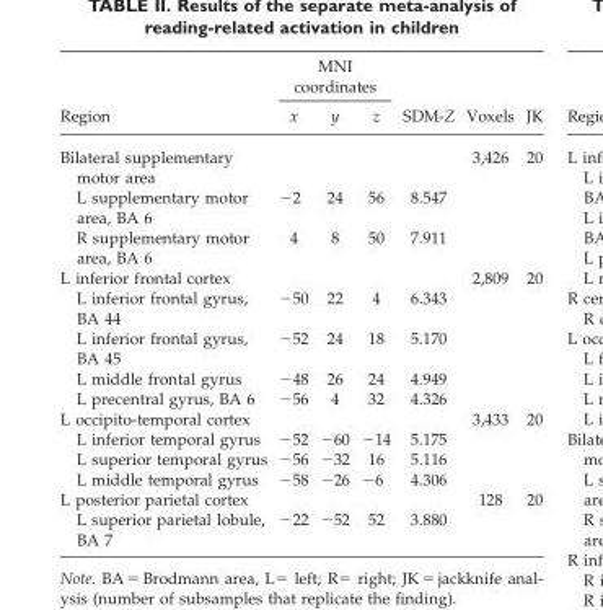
<table><thead><tr><td rowspan="2">Region</td><td colspan="3">MNI coordinates</td><td rowspan="2">SDM-Z</td><td rowspan="2">Voxels</td><td rowspan="2">JK</td></tr><tr><td>x</td><td>y</td><td>z</td></tr></thead><tbody><tr><td>Bilateral supplementary motor area</td><td></td><td></td><td></td><td></td><td>3,426</td><td>20</td></tr><tr><td>L supplementary motor area, BA 6</td><td>−2</td><td>24</td><td>56</td><td>8.547</td><td></td><td></td></tr><tr><td>R supplementary motor area, BA 6</td><td>4</td><td>8</td><td>50</td><td>7.911</td><td></td><td></td></tr><tr><td>L inferior frontal cortex</td><td></td><td></td><td></td><td></td><td>2,809</td><td>20</td></tr><tr><td>L inferior frontal gyrus, BA 44</td><td>−50</td><td>22</td><td>4</td><td>6.343</td><td></td><td></td></tr><tr><td>L inferior frontal gyrus, BA 45</td><td>−52</td><td>24</td><td>18</td><td>5.170</td><td></td><td></td></tr><tr><td>L middle frontal gyrus</td><td>−48</td><td>26</td><td>24</td><td>4.949</td><td></td><td></td></tr><tr><td>L precentral gyrus, BA 6</td><td>−56</td><td>4</td><td>32</td><td>4.326</td><td></td><td></td></tr><tr><td>L occipito-temporal cortex</td><td></td><td></td><td></td><td></td><td>3,433</td><td>20</td></tr><tr><td>L inferior temporal gyrus</td><td>−52</td><td>−60</td><td>−14</td><td>5.175</td><td></td><td></td></tr><tr><td>L superior temporal gyrus</td><td>−56</td><td>−32</td><td>16</td><td>5.116</td><td></td><td></td></tr><tr><td>L middle temporal gyrus</td><td>−58</td><td>−26</td><td>−6</td><td>4.306</td><td></td><td></td></tr><tr><td>L posterior parietal cortex</td><td></td><td></td><td></td><td></td><td>128</td><td>20</td></tr><tr><td>L superior parietal lobule, BA 7</td><td>−22</td><td>−52</td><td>52</td><td>3.880</td><td></td><td></td></tr></tbody></table>